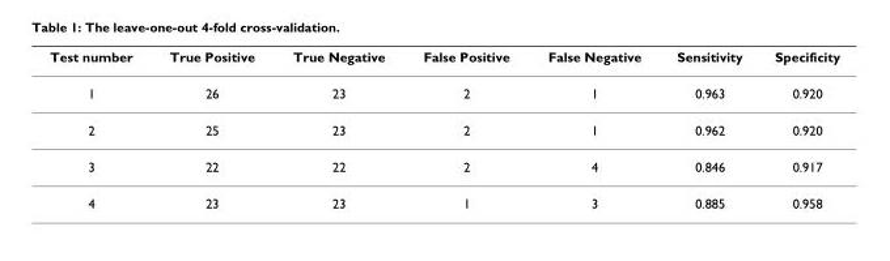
<table><thead><tr><td>Test number</td><td>True Positive</td><td>True Negative</td><td>False Positive</td><td>False Negative</td><td>Sensitivity</td><td>Specificity</td></tr></thead><tbody><tr><td>1</td><td>26</td><td>23</td><td>2</td><td>1</td><td>0.963</td><td>0.920</td></tr><tr><td>2</td><td>25</td><td>23</td><td>2</td><td>1</td><td>0.962</td><td>0.920</td></tr><tr><td>3</td><td>22</td><td>22</td><td>2</td><td>4</td><td>0.846</td><td>0.917</td></tr><tr><td>4</td><td>23</td><td>23</td><td>1</td><td>3</td><td>0.885</td><td>0.958</td></tr></tbody></table>